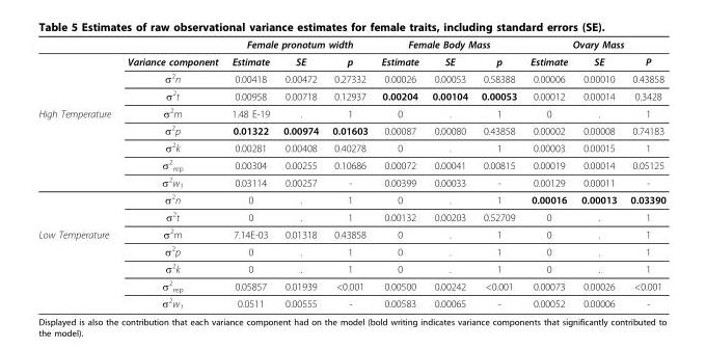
<table><thead><tr><td rowspan="2"></td><td rowspan="2">Variance component</td><td colspan="3">Female pronotum width</td><td colspan="3">Female Body Mass</td><td colspan="3">Ovary Mass</td></tr><tr><td>Estimate</td><td>SE</td><td>p</td><td>Estimate</td><td>SE</td><td>p</td><td>Estimate</td><td>SE</td><td>P</td></tr></thead><tbody><tr><td></td><td>σ<sup>2</sup>n</td><td>0.00418</td><td>0.00472</td><td>0.27332</td><td>0.00026</td><td>0.00053</td><td>0.58388</td><td>0.00006</td><td>0.00010</td><td>0.43858</td></tr><tr><td></td><td>σ<sup>2</sup>t</td><td>0.00958</td><td>0.00718</td><td>0.12937</td><td>0.00204</td><td>0.00104</td><td>0.00053</td><td>0.00012</td><td>0.00014</td><td>0.3428</td></tr><tr><td rowspan="7">High Temperature</td><td>σ<sup>2</sup>m</td><td>1.48 E-19</td><td>.</td><td>1</td><td>0</td><td>.</td><td>1</td><td>0</td><td>.</td><td>1</td></tr><tr><td>σ<sup>2</sup>p</td><td>0.01322</td><td>0.00974</td><td>0.01603</td><td>0.00087</td><td>0.00080</td><td>0.43858</td><td>0.00002</td><td>0.00008</td><td>0.74183</td></tr><tr><td>σ<sup>2</sup>k</td><td>0.00281</td><td>0.00408</td><td>0.40278</td><td>0</td><td>.</td><td>1</td><td>0.00003</td><td>0.00015</td><td>1</td></tr><tr><td>σ<sup>2</sup> <sub>rep</sub></td><td>0.00304</td><td>0.00255</td><td>0.10686</td><td>0.00072</td><td>0.00041</td><td>0.00815</td><td>0.00019</td><td>0.00014</td><td>0.05125</td></tr><tr><td>σ<sup>2</sup>w<sub>1</sub></td><td>0.03114</td><td>0.00257</td><td>-</td><td>0.00399</td><td>0.00033</td><td>-</td><td>0.00129</td><td>0.00011</td><td>-</td></tr><tr><td>σ<sup>2</sup>n</td><td>0</td><td>.</td><td>1</td><td>0</td><td>.</td><td>1</td><td>0.00016</td><td>0.00013</td><td>0.03390</td></tr><tr><td>σ<sup>2</sup>t</td><td>0</td><td>.</td><td>1</td><td>0.00132</td><td>0.00203</td><td>0.52709</td><td>0</td><td>.</td><td>1</td></tr><tr><td rowspan="5">Low Temperature</td><td>σ<sup>2</sup>m</td><td>7.14E-03</td><td>0.01318</td><td>0.43858</td><td>0</td><td>.</td><td>1</td><td>0</td><td>.</td><td>1</td></tr><tr><td>σ<sup>2</sup>p</td><td>0</td><td>.</td><td>1</td><td>0</td><td>.</td><td>1</td><td>0</td><td>.</td><td>1</td></tr><tr><td>σ<sup>2</sup>k</td><td>0</td><td>.</td><td>1</td><td>0</td><td>.</td><td>1</td><td>0</td><td>.</td><td>1</td></tr><tr><td>σ<sup>2</sup> <sub>rep</sub></td><td>0.05857</td><td>0.01939</td><td>&lt;0.001</td><td>0.00500</td><td>0.00242</td><td>&lt;0.001</td><td>0.00073</td><td>0.00026</td><td>&lt;0.001</td></tr><tr><td>σ<sup>2</sup>w<sub>1</sub></td><td>0.0511</td><td>0.00555</td><td>-</td><td>0.00583</td><td>0.00065</td><td>-</td><td>0.00052</td><td>0.00006</td><td>-</td></tr></tbody></table>